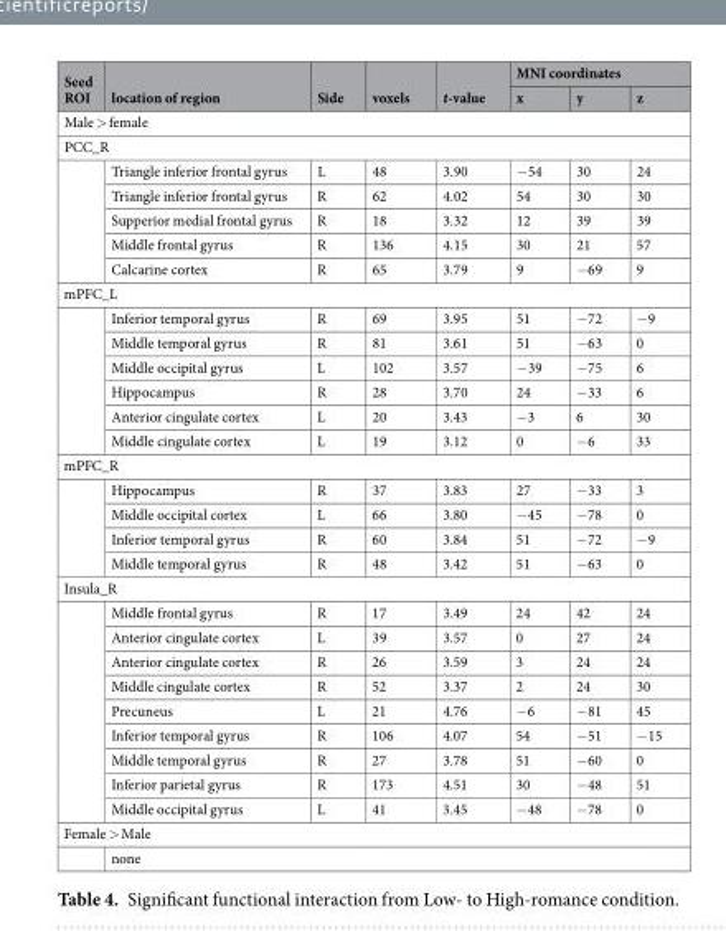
<table><thead><tr><td rowspan="2">Seed ROI</td><td rowspan="2">location of region</td><td rowspan="2">Side</td><td rowspan="2">voxels</td><td rowspan="2">t-value</td><td colspan="3">MNI coordinates</td></tr><tr><td>x</td><td>y</td><td>z</td></tr></thead><tbody><tr><td colspan="8">Male &gt; female</td></tr><tr><td colspan="8">PCC_R</td></tr><tr><td rowspan="5"></td><td>Triangle inferior frontal gyrus</td><td>L</td><td>48</td><td>3.90</td><td>−54</td><td>30</td><td>24</td></tr><tr><td>Triangle inferior frontal gyrus</td><td>R</td><td>62</td><td>4.02</td><td>54</td><td>30</td><td>30</td></tr><tr><td>Supperior medial frontal gyrus</td><td>R</td><td>18</td><td>3.32</td><td>12</td><td>39</td><td>39</td></tr><tr><td>Middle frontal gyrus</td><td>R</td><td>136</td><td>4.15</td><td>30</td><td>21</td><td>57</td></tr><tr><td>Calcarine cortex</td><td>R</td><td>65</td><td>3.79</td><td>9</td><td>−69</td><td>9</td></tr><tr><td colspan="8">mPFC_L</td></tr><tr><td rowspan="6"></td><td>Inferior temporal gyrus</td><td>R</td><td>69</td><td>3.95</td><td>51</td><td>−72</td><td>−9</td></tr><tr><td>Middle temporal gyrus</td><td>R</td><td>81</td><td>3.61</td><td>51</td><td>−63</td><td>0</td></tr><tr><td>Middle occipital gyrus</td><td>L</td><td>102</td><td>3.57</td><td>−39</td><td>−75</td><td>6</td></tr><tr><td>Hippocampus</td><td>R</td><td>28</td><td>3.70</td><td>24</td><td>−33</td><td>6</td></tr><tr><td>Anterior cingulate cortex</td><td>L</td><td>20</td><td>3.43</td><td>−3</td><td>6</td><td>30</td></tr><tr><td>Middle cingulate cortex</td><td>L</td><td>19</td><td>3.12</td><td>0</td><td>−6</td><td>33</td></tr><tr><td colspan="8">mPFC_R</td></tr><tr><td rowspan="4"></td><td>Hippocampus</td><td>R</td><td>37</td><td>3.83</td><td>27</td><td>−33</td><td>3</td></tr><tr><td>Middle occipital cortex</td><td>L</td><td>66</td><td>3.80</td><td>−45</td><td>−78</td><td>0</td></tr><tr><td>Inferior temporal gyrus</td><td>R</td><td>60</td><td>3.84</td><td>51</td><td>−72</td><td>−9</td></tr><tr><td>Middle temporal gyrus</td><td>R</td><td>48</td><td>3.42</td><td>51</td><td>−63</td><td>0</td></tr><tr><td colspan="8">Insula_R</td></tr><tr><td rowspan="9"></td><td>Middle frontal gyrus</td><td>R</td><td>17</td><td>3.49</td><td>24</td><td>42</td><td>24</td></tr><tr><td>Anterior cingulate cortex</td><td>L</td><td>39</td><td>3.57</td><td>0</td><td>27</td><td>24</td></tr><tr><td>Anterior cingulate cortex</td><td>R</td><td>26</td><td>3.59</td><td>3</td><td>24</td><td>24</td></tr><tr><td>Middle cingulate cortex</td><td>R</td><td>52</td><td>3.37</td><td>2</td><td>24</td><td>30</td></tr><tr><td>Precuneus</td><td>L</td><td>21</td><td>4.76</td><td>−6</td><td>−81</td><td>45</td></tr><tr><td>Inferior temporal gyrus</td><td>R</td><td>106</td><td>4.07</td><td>54</td><td>−51</td><td>−15</td></tr><tr><td>Middle temporal gyrus</td><td>R</td><td>27</td><td>3.78</td><td>51</td><td>−60</td><td>0</td></tr><tr><td>Inferior parietal gyrus</td><td>R</td><td>173</td><td>4.51</td><td>30</td><td>−48</td><td>51</td></tr><tr><td>Middle occipital gyrus</td><td>L</td><td>41</td><td>3.45</td><td>−48</td><td>−78</td><td>0</td></tr><tr><td colspan="8">Female &gt; Male</td></tr><tr><td></td><td colspan="7">none</td></tr></tbody></table>